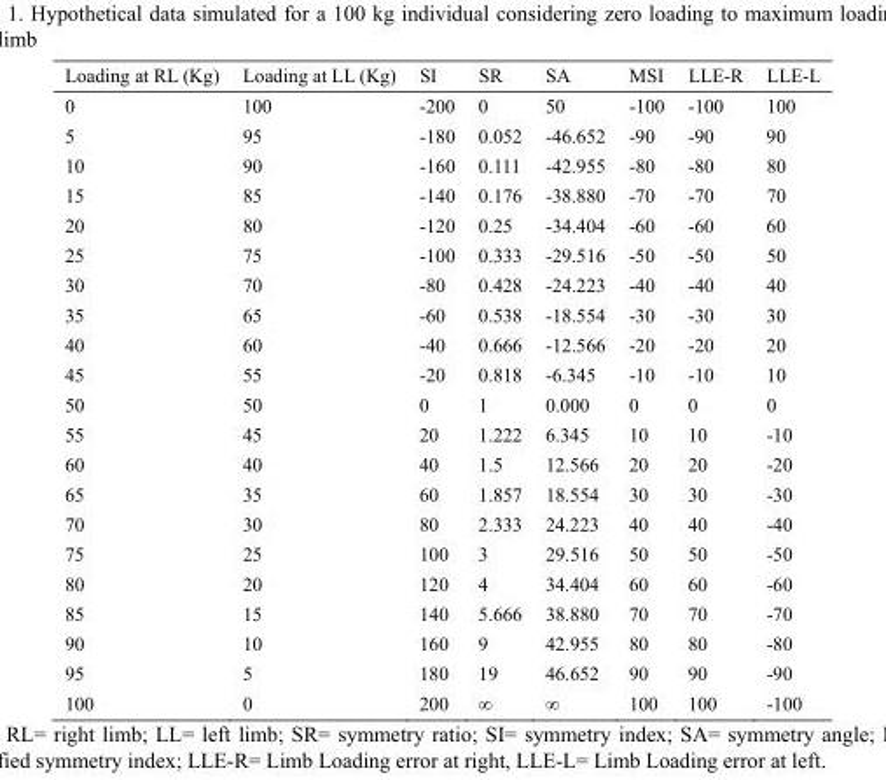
<table><thead><tr><td>Loading at RL (Kg)</td><td>Loading at LL (Kg)</td><td>SI</td><td>SR</td><td>SA</td><td>MSI</td><td>LLE-R</td><td>LLE-L</td></tr></thead><tbody><tr><td>0</td><td>100</td><td>-200</td><td>0</td><td>50</td><td>-100</td><td>-100</td><td>100</td></tr><tr><td>5</td><td>95</td><td>-180</td><td>0.052</td><td>-46.652</td><td>-90</td><td>-90</td><td>90</td></tr><tr><td>10</td><td>90</td><td>-160</td><td>0.111</td><td>-42.955</td><td>-80</td><td>-80</td><td>80</td></tr><tr><td>15</td><td>85</td><td>-140</td><td>0.176</td><td>-38.880</td><td>-70</td><td>-70</td><td>70</td></tr><tr><td>20</td><td>80</td><td>-120</td><td>0.25</td><td>-34.404</td><td>-60</td><td>-60</td><td>60</td></tr><tr><td>25</td><td>75</td><td>-100</td><td>0.333</td><td>-29.516</td><td>-50</td><td>-50</td><td>50</td></tr><tr><td>30</td><td>70</td><td>-80</td><td>0.428</td><td>-24.223</td><td>-40</td><td>-40</td><td>40</td></tr><tr><td>35</td><td>65</td><td>-60</td><td>0.538</td><td>-18.554</td><td>-30</td><td>-30</td><td>30</td></tr><tr><td>40</td><td>60</td><td>-40</td><td>0.666</td><td>-12.566</td><td>-20</td><td>-20</td><td>20</td></tr><tr><td>45</td><td>55</td><td>-20</td><td>0.818</td><td>-6.345</td><td>-10</td><td>-10</td><td>10</td></tr><tr><td>50</td><td>50</td><td>0</td><td>1</td><td>0.000</td><td>0</td><td>0</td><td>0</td></tr><tr><td>55</td><td>45</td><td>20</td><td>1.222</td><td>6.345</td><td>10</td><td>10</td><td>-10</td></tr><tr><td>60</td><td>40</td><td>40</td><td>1.5</td><td>12.566</td><td>20</td><td>20</td><td>-20</td></tr><tr><td>65</td><td>35</td><td>60</td><td>1.857</td><td>18.554</td><td>30</td><td>30</td><td>-30</td></tr><tr><td>70</td><td>30</td><td>80</td><td>2.333</td><td>24.223</td><td>40</td><td>40</td><td>-40</td></tr><tr><td>75</td><td>25</td><td>100</td><td>3</td><td>29.516</td><td>50</td><td>50</td><td>-50</td></tr><tr><td>80</td><td>20</td><td>120</td><td>4</td><td>34.404</td><td>60</td><td>60</td><td>-60</td></tr><tr><td>85</td><td>15</td><td>140</td><td>5.666</td><td>38.880</td><td>70</td><td>70</td><td>-70</td></tr><tr><td>90</td><td>10</td><td>160</td><td>9</td><td>42.955</td><td>80</td><td>80</td><td>-80</td></tr><tr><td>95</td><td>5</td><td>180</td><td>19</td><td>46.652</td><td>90</td><td>90</td><td>-90</td></tr><tr><td>100</td><td>0</td><td>200</td><td>∞</td><td>∞</td><td>100</td><td>100</td><td>-100</td></tr></tbody></table>